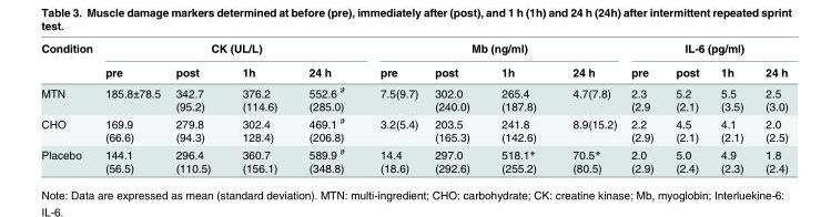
<table><thead><tr><td rowspan="2">Condition</td><td colspan="4">CK (UL/L)</td><td colspan="4">Mb (ng/ml)</td><td colspan="4">IL-6 (pg/ml)</td></tr><tr><td>pre</td><td>post</td><td>1h</td><td>24 h</td><td>pre</td><td>post</td><td>1h</td><td>24 h</td><td>pre</td><td>post</td><td>1h</td><td>24 h</td></tr></thead><tbody><tr><td>MTN</td><td>185.8±78.5</td><td>342.7 (95.2)</td><td>376.2 (114.6)</td><td>552.6 <sup>ϑ</sup> (285.0)</td><td>7.5(9.7)</td><td>302.0 (240.0)</td><td>265.4 (187.8)</td><td>4.7(7.8)</td><td>2.3 (2.9</td><td>5.2 (2.1)</td><td>5.5 (3.5)</td><td>2.5 (3.0)</td></tr><tr><td>CHO</td><td>169.9 (66.6)</td><td>279.8 (94.3)</td><td>302.4 128.4)</td><td>469.1 <sup>ϑ</sup> (206.8)</td><td>3.2(5.4)</td><td>203.5 (165.3)</td><td>241.8 (142.6)</td><td>8.9(15.2)</td><td>2.2 (2.9)</td><td>4.5 (2.1)</td><td>4.1 (2.1)</td><td>2.0 (2.5)</td></tr><tr><td>Placebo</td><td>144.1 (56.5)</td><td>296.4 (110.5)</td><td>360.7 (156.1)</td><td>589.9 <sup>ϑ</sup> (348.8)</td><td>14.4 (18.6)</td><td>297.0 (292.6)</td><td>518.1* (255.2)</td><td>70.5* (80.5)</td><td>2.0 (2.9)</td><td>5.0 (2.4)</td><td>4.9 (2.3)</td><td>1.8 (2.4)</td></tr></tbody></table>